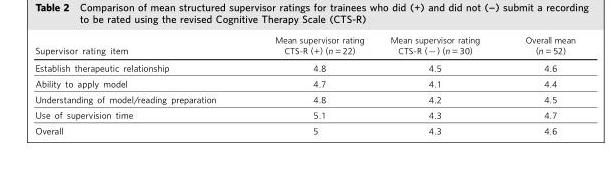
<table><thead><tr><td>Supervisor rating item</td><td>Mean supervisor rating CTS-R (+) (n = 22)</td><td>Mean supervisor rating CTS-R (–) (n = 30)</td><td>Overall mean (n = 52)</td></tr></thead><tbody><tr><td>Establish therapeutic relationship</td><td>4.8</td><td>4.5</td><td>4.6</td></tr><tr><td>Ability to apply model</td><td>4.7</td><td>4.1</td><td>4.4</td></tr><tr><td>Understanding of model/reading preparation</td><td>4.8</td><td>4.2</td><td>4.5</td></tr><tr><td>Use of supervision time</td><td>5.1</td><td>4.3</td><td>4.7</td></tr><tr><td>Overall</td><td>5</td><td>4.3</td><td>4.6</td></tr></tbody></table>